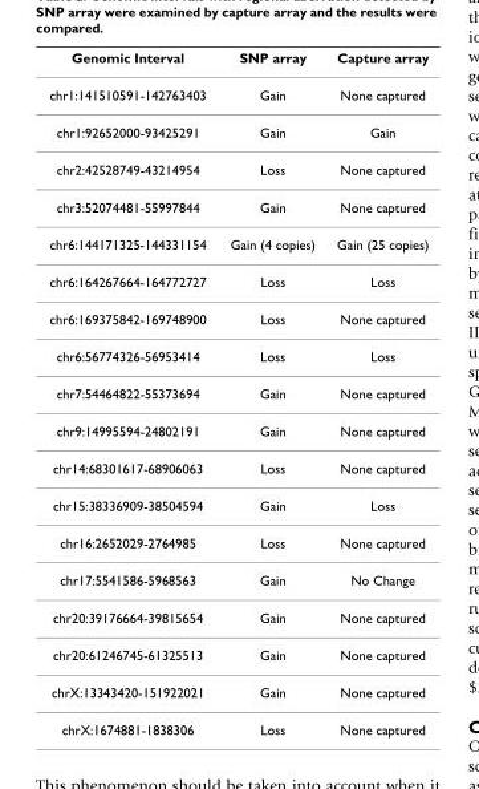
<table><thead><tr><td>Genomic Interval</td><td>SNP array</td><td>Capture array</td></tr></thead><tbody><tr><td>chr1:141510591-142763403</td><td>Gain</td><td>None captured</td></tr><tr><td>chr1:92652000-93425291</td><td>Gain</td><td>Gain</td></tr><tr><td>chr2:42528749-43214954</td><td>Loss</td><td>None captured</td></tr><tr><td>chr3:52074481-55997844</td><td>Gain</td><td>None captured</td></tr><tr><td>chr6:144171325-144331154</td><td>Gain (4 copies)</td><td>Gain (25 copies)</td></tr><tr><td>chr6:164267664-164772727</td><td>Loss</td><td>Loss</td></tr><tr><td>chr6:169375842-169748900</td><td>Loss</td><td>None captured</td></tr><tr><td>chr6:56774326-56953414</td><td>Loss</td><td>Loss</td></tr><tr><td>chr7:54464822-55373694</td><td>Gain</td><td>None captured</td></tr><tr><td>chr9:14995594-24802191</td><td>Gain</td><td>None captured</td></tr><tr><td>chr14:68301617-68906063</td><td>Loss</td><td>None captured</td></tr><tr><td>chr15:38336909-38504594</td><td>Gain</td><td>Loss</td></tr><tr><td>chr16:2652029-2764985</td><td>Loss</td><td>None captured</td></tr><tr><td>chr17:5541586-5968563</td><td>Gain</td><td>No Change</td></tr><tr><td>chr20:39176664-39815654</td><td>Gain</td><td>None captured</td></tr><tr><td>chr20:61246745-61325513</td><td>Gain</td><td>None captured</td></tr><tr><td>chrX:13343420-151922021</td><td>Gain</td><td>None captured</td></tr><tr><td>chrX:1674881-1838306</td><td>Loss</td><td>None captured</td></tr></tbody></table>